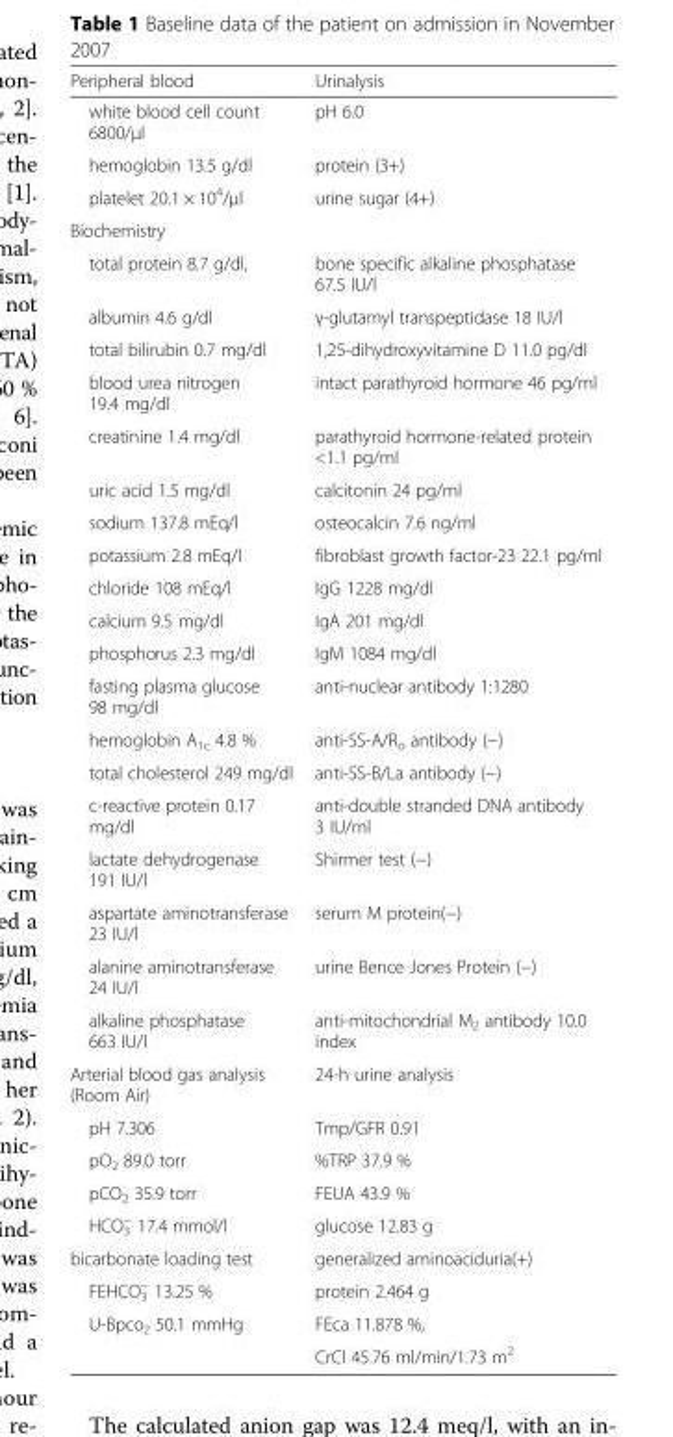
<table><thead><tr><td>Peripheral blood</td><td>Urinalysis</td></tr></thead><tbody><tr><td>white blood cell count 6800/μl</td><td>pH 6.0</td></tr><tr><td>hemoglobin 13.5 g/dl</td><td>protein (3+)</td></tr><tr><td>platelet 20.1 × 10<sup>4</sup>/μl</td><td>urine sugar (4+)</td></tr><tr><td colspan="2">Biochemistry</td></tr><tr><td>total protein 8.7 g/dl,</td><td>bone specific alkaline phosphatase 67.5 IU/l</td></tr><tr><td>albumin 4.6 g/dl</td><td>γ-glutamyl transpeptidase 18 IU/l</td></tr><tr><td>total bilirubin 0.7 mg/dl</td><td>1,25-dihydroxyvitamine D 11.0 pg/dl</td></tr><tr><td>blood urea nitrogen 19.4 mg/dl</td><td>intact parathyroid hormone 46 pg/ml</td></tr><tr><td>creatinine 1.4 mg/dl</td><td>parathyroid hormone-related protein &lt;1.1 pg/ml</td></tr><tr><td>uric acid 1.5 mg/dl</td><td>calcitonin 24 pg/ml</td></tr><tr><td>sodium 137.8 mEq/l</td><td>osteocalcin 7.6 ng/ml</td></tr><tr><td>potassium 2.8 mEq/l</td><td>fibroblast growth factor-23 22.1 pg/ml</td></tr><tr><td>chloride 108 mEq/l</td><td>IgG 1228 mg/dl</td></tr><tr><td>calcium 9.5 mg/dl</td><td>IgA 201 mg/dl</td></tr><tr><td>phosphorus 2.3 mg/dl</td><td>IgM 1084 mg/dl</td></tr><tr><td>fasting plasma glucose 98 mg/dl</td><td>anti-nuclear antibody 1:1280</td></tr><tr><td>hemoglobin A<sub>1c</sub> 4.8 %</td><td>anti-SS-A/R<sub>o</sub> antibody (−)</td></tr><tr><td>total cholesterol 249 mg/dl</td><td>anti-SS-B/La antibody (−)</td></tr><tr><td>c-reactive protein 0.17 mg/dl</td><td>anti-double stranded DNA antibody 3 IU/ml</td></tr><tr><td>lactate dehydrogenase 191 IU/l</td><td>Shirmer test (−)</td></tr><tr><td>aspartate aminotransferase 23 IU/l</td><td>serum M protein(−)</td></tr><tr><td>alanine aminotransferase 24 IU/l</td><td>urine Bence Jones Protein (−)</td></tr><tr><td>alkaline phosphatase 663 IU/l</td><td>anti-mitochondrial M<sub>2</sub> antibody 10.0 index</td></tr><tr><td>Arterial blood gas analysis (Room Air)</td><td>24-h urine analysis</td></tr><tr><td>pH 7.306</td><td>Tmp/GFR 0.91</td></tr><tr><td>pO<sub>2</sub> 89.0 torr</td><td>%TRP 37.9 %</td></tr><tr><td>pCO<sub>2</sub> 35.9 torr</td><td>FEUA 43.9 %</td></tr><tr><td>HCO<sub>3</sub> <sup>−</sup> 17.4 mmol/l</td><td>glucose 12.83 g</td></tr><tr><td>bicarbonate loading test</td><td>generalized aminoaciduria(+)</td></tr><tr><td>FEHCO<sub>3</sub> <sup>−</sup> 13.25 %</td><td>protein 2.464 g</td></tr><tr><td rowspan="2">U-Bpco<sub>2</sub> 50.1 mmHg</td><td>FEca 11.878 %,</td></tr><tr><td>CrCl 45.76 ml/min/1.73 m<sup>2</sup></td></tr></tbody></table>